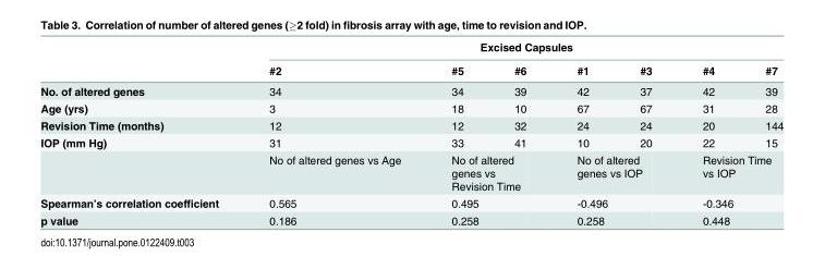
<table><thead><tr><td rowspan="2"></td><td colspan="7">Excised Capsules</td></tr><tr><td>#2</td><td>#5</td><td>#6</td><td>#1</td><td>#3</td><td>#4</td><td>#7</td></tr></thead><tbody><tr><td>No. of altered genes</td><td>34</td><td>34</td><td>39</td><td>42</td><td>37</td><td>42</td><td>39</td></tr><tr><td>Age (yrs)</td><td>3</td><td>18</td><td>10</td><td>67</td><td>67</td><td>31</td><td>28</td></tr><tr><td>Revision Time (months)</td><td>12</td><td>12</td><td>32</td><td>24</td><td>24</td><td>20</td><td>144</td></tr><tr><td rowspan="2">IOP (mm Hg)</td><td>31</td><td>33</td><td>41</td><td>10</td><td>20</td><td>22</td><td>15</td></tr><tr><td>No of altered genes vs Age</td><td colspan="2">No of altered genes vs Revision Time</td><td colspan="2">No of altered genes vs IOP</td><td colspan="2">Revision Time vs IOP</td></tr><tr><td>Spearman’s correlation coefficient</td><td>0.565</td><td colspan="2">0.495</td><td colspan="2">-0.496</td><td colspan="2">-0.346</td></tr><tr><td>p value</td><td>0.186</td><td colspan="2">0.258</td><td colspan="2">0.258</td><td colspan="2">0.448</td></tr></tbody></table>